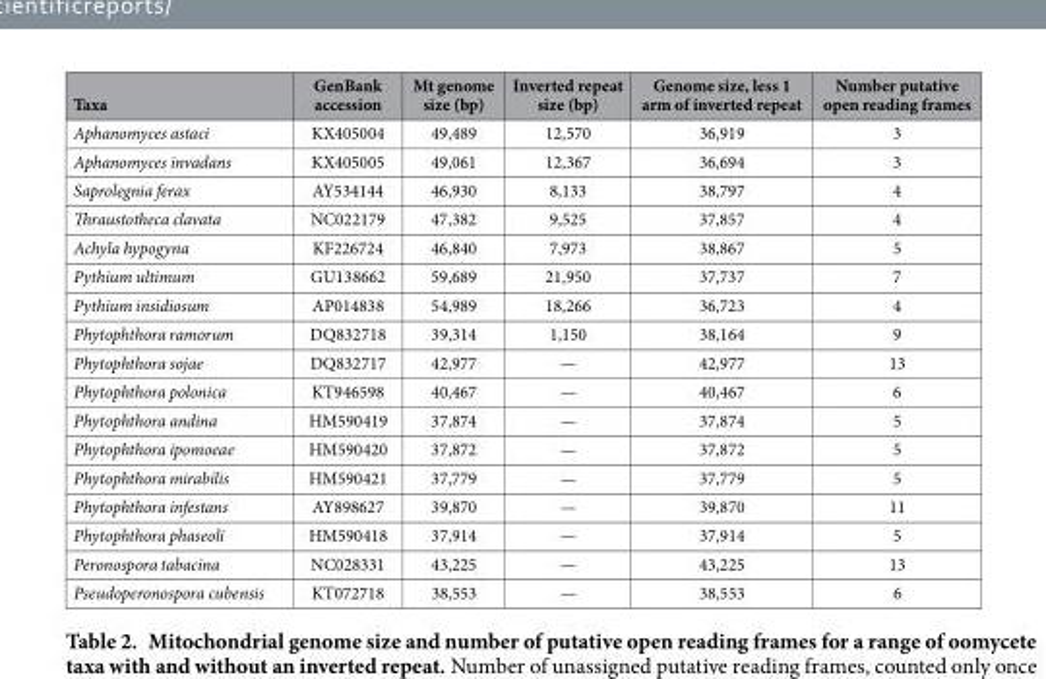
<table><thead><tr><td>Taxa</td><td>GenBank accession</td><td>Mt genome size (bp)</td><td>Inverted repeat size (bp)</td><td>Genome size, less 1 arm of inverted repeat</td><td>Number putative open reading frames</td></tr></thead><tbody><tr><td>Aphanomyces astaci</td><td>KX405004</td><td>49,489</td><td>12,570</td><td>36,919</td><td>3</td></tr><tr><td>Aphanomyces invadans</td><td>KX405005</td><td>49,061</td><td>12,367</td><td>36,694</td><td>3</td></tr><tr><td>Saprolegnia ferax</td><td>AY534144</td><td>46,930</td><td>8,133</td><td>38,797</td><td>4</td></tr><tr><td>Thraustotheca clavata</td><td>NC022179</td><td>47,382</td><td>9,525</td><td>37,857</td><td>4</td></tr><tr><td>Achyla hypogyna</td><td>KF226724</td><td>46,840</td><td>7,973</td><td>38,867</td><td>5</td></tr><tr><td>Pythium ultimum</td><td>GU138662</td><td>59,689</td><td>21,950</td><td>37,737</td><td>7</td></tr><tr><td>Pythium insidiosum</td><td>AP014838</td><td>54,989</td><td>18,266</td><td>36,723</td><td>4</td></tr><tr><td>Phytophthora ramorum</td><td>DQ832718</td><td>39,314</td><td>1,150</td><td>38,164</td><td>9</td></tr><tr><td>Phytophthora sojae</td><td>DQ832717</td><td>42,977</td><td>—</td><td>42,977</td><td>13</td></tr><tr><td>Phytophthora polonica</td><td>KT946598</td><td>40,467</td><td>—</td><td>40,467</td><td>6</td></tr><tr><td>Phytophthora andina</td><td>HM590419</td><td>37,874</td><td>—</td><td>37,874</td><td>5</td></tr><tr><td>Phytophthora ipomoeae</td><td>HM590420</td><td>37,872</td><td>—</td><td>37,872</td><td>5</td></tr><tr><td>Phytophthora mirabilis</td><td>HM590421</td><td>37,779</td><td>—</td><td>37,779</td><td>5</td></tr><tr><td>Phytophthora infestans</td><td>AY898627</td><td>39,870</td><td>—</td><td>39,870</td><td>11</td></tr><tr><td>Phytophthora phaseoli</td><td>HM590418</td><td>37,914</td><td>—</td><td>37,914</td><td>5</td></tr><tr><td>Peronospora tabacina</td><td>NC028331</td><td>43,225</td><td>—</td><td>43,225</td><td>13</td></tr><tr><td>Pseudoperonospora cubensis</td><td>KT072718</td><td>38,553</td><td>—</td><td>38,553</td><td>6</td></tr></tbody></table>